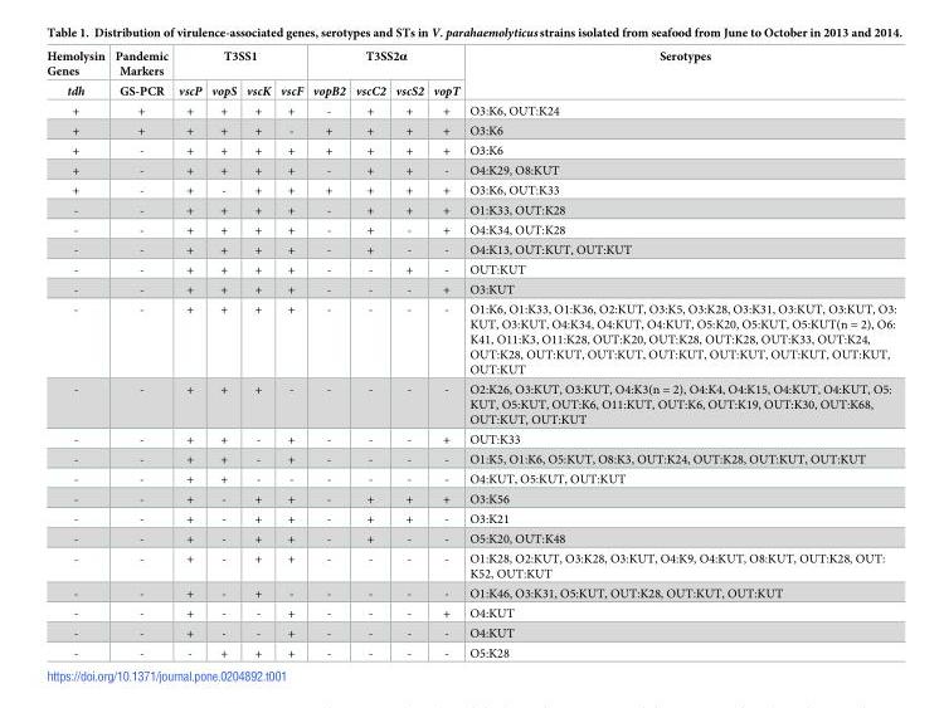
<table><thead><tr><td rowspan="2">Hemolysin Genes tdh</td><td rowspan="2">Pandemic Markers GS-PCR</td><td colspan="4">T3SS1</td><td colspan="4">T3SS2α</td><td rowspan="2">Serotypes</td></tr><tr><td>vscP</td><td>vopS</td><td>vscK</td><td>vscF</td><td>vopB2</td><td>vscC2</td><td>vscS2</td><td>vopT</td></tr></thead><tbody><tr><td>+</td><td>+</td><td>+</td><td>+</td><td>+</td><td>+</td><td>-</td><td>+</td><td>+</td><td>+</td><td>O3:K6, OUT:K24</td></tr><tr><td>+</td><td>+</td><td>+</td><td>+</td><td>+</td><td>-</td><td>+</td><td>+</td><td>+</td><td>+</td><td>O3:K6</td></tr><tr><td>+</td><td>-</td><td>+</td><td>+</td><td>+</td><td>+</td><td>+</td><td>+</td><td>+</td><td>+</td><td>O3:K6</td></tr><tr><td>+</td><td>-</td><td>+</td><td>+</td><td>+</td><td>+</td><td>-</td><td>+</td><td>+</td><td>-</td><td>O4:K29, O8:KUT</td></tr><tr><td>+</td><td>-</td><td>+</td><td>-</td><td>+</td><td>+</td><td>+</td><td>+</td><td>+</td><td>+</td><td>O3:K6, OUT:K33</td></tr><tr><td>-</td><td>-</td><td>+</td><td>+</td><td>+</td><td>+</td><td>-</td><td>+</td><td>+</td><td>+</td><td>O1:K33, OUT:K28</td></tr><tr><td>-</td><td>-</td><td>+</td><td>+</td><td>+</td><td>+</td><td>-</td><td>+</td><td>-</td><td>+</td><td>O4:K34, OUT:K28</td></tr><tr><td>-</td><td>-</td><td>+</td><td>+</td><td>+</td><td>+</td><td>-</td><td>+</td><td>-</td><td>-</td><td>O4:K13, OUT:KUT, OUT:KUT</td></tr><tr><td>-</td><td>-</td><td>+</td><td>+</td><td>+</td><td>+</td><td>-</td><td>-</td><td>+</td><td>-</td><td>OUT:KUT</td></tr><tr><td>-</td><td>-</td><td>+</td><td>+</td><td>+</td><td>+</td><td>-</td><td>-</td><td>-</td><td>+</td><td>O3:KUT</td></tr><tr><td>-</td><td>-</td><td>+</td><td>+</td><td>+</td><td>+</td><td>-</td><td>-</td><td>-</td><td>-</td><td>O1:K6, O1:K33, O1:K36, O2:KUT, O3:K5, O3:K28, O3:K31, O3:KUT, O3:KUT, O3: KUT, O3:KUT, O4:K34, O4:KUT, O4:KUT, O5:K20, O5:KUT, O5:KUT(n = 2), O6: K41, O11:K3, O11:K28, OUT:K20, OUT:K28, OUT:K28, OUT:K33, OUT:K24, OUT:K28, OUT:KUT, OUT:KUT, OUT:KUT, OUT:KUT, OUT:KUT, OUT:KUT, OUT:KUT</td></tr><tr><td>-</td><td>-</td><td>+</td><td>+</td><td>+</td><td>-</td><td>-</td><td>-</td><td>-</td><td>-</td><td>O2:K26, O3:KUT, O3:KUT, O4:K3(n = 2), O4:K4, O4:K15, O4:KUT, O4:KUT, O5: KUT, O5:KUT, OUT:K6, O11:KUT, OUT:K6, OUT:K19, OUT:K30, OUT:K68, OUT:KUT, OUT:KUT</td></tr><tr><td>-</td><td>-</td><td>+</td><td>+</td><td>-</td><td>+</td><td>-</td><td>-</td><td>-</td><td>+</td><td>OUT:K33</td></tr><tr><td>-</td><td>-</td><td>+</td><td>+</td><td>-</td><td>+</td><td>-</td><td>-</td><td>-</td><td>-</td><td>O1:K5, O1:K6, O5:KUT, O8:K3, OUT:K24, OUT:K28, OUT:KUT, OUT:KUT</td></tr><tr><td>-</td><td>-</td><td>+</td><td>+</td><td>-</td><td>-</td><td>-</td><td>-</td><td>-</td><td>-</td><td>O4:KUT, O5:KUT, OUT:KUT</td></tr><tr><td>-</td><td>-</td><td>+</td><td>-</td><td>+</td><td>+</td><td>-</td><td>+</td><td>+</td><td>+</td><td>O3:K56</td></tr><tr><td>-</td><td>-</td><td>+</td><td>-</td><td>+</td><td>+</td><td>-</td><td>+</td><td>+</td><td>-</td><td>O3:K21</td></tr><tr><td>-</td><td>-</td><td>+</td><td>-</td><td>+</td><td>+</td><td>-</td><td>+</td><td>-</td><td>-</td><td>O5:K20, OUT:K48</td></tr><tr><td>-</td><td>-</td><td>+</td><td>-</td><td>+</td><td>+</td><td>-</td><td>-</td><td>-</td><td>-</td><td>O1:K28, O2:KUT, O3:K28, O3:KUT, O4:K9, O4:KUT, O8:KUT, OUT:K28, OUT: K52, OUT:KUT</td></tr><tr><td>-</td><td>-</td><td>+</td><td>-</td><td>+</td><td>-</td><td>-</td><td>-</td><td>-</td><td>-</td><td>O1:K46, O3:K31, O5:KUT, OUT:K28, OUT:KUT, OUT:KUT</td></tr><tr><td>-</td><td>-</td><td>+</td><td>-</td><td>-</td><td>+</td><td>-</td><td>-</td><td>-</td><td>+</td><td>O4:KUT</td></tr><tr><td>-</td><td>-</td><td>+</td><td>-</td><td>-</td><td>+</td><td>-</td><td>-</td><td>-</td><td>-</td><td>O4:KUT</td></tr><tr><td>-</td><td>-</td><td>-</td><td>+</td><td>+</td><td>+</td><td>-</td><td>-</td><td>-</td><td>-</td><td>O5:K28</td></tr></tbody></table>